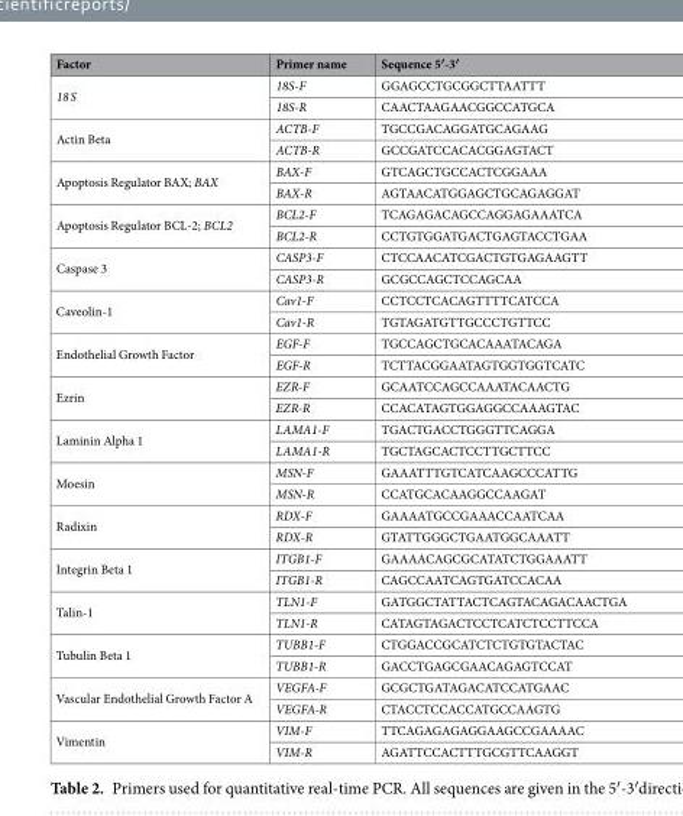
<table><thead><tr><td>Factor</td><td>Primer name</td><td>Sequence 5′-3′</td></tr></thead><tbody><tr><td rowspan="2">18 S</td><td>18S-F</td><td>GGAGCCTGCGGCTTAATTT</td></tr><tr><td>18S-R</td><td>CAACTAAGAACGGCCATGCA</td></tr><tr><td rowspan="2">Actin Beta</td><td>ACTB-F</td><td>TGCCGACAGGATGCAGAAG</td></tr><tr><td>ACTB-R</td><td>GCCGATCCACACGGAGTACT</td></tr><tr><td rowspan="2">Apoptosis Regulator BAX; BAX</td><td>BAX-F</td><td>GTCAGCTGCCACTCGGAAA</td></tr><tr><td>BAX-R</td><td>AGTAACATGGAGCTGCAGAGGAT</td></tr><tr><td rowspan="2">Apoptosis Regulator BCL-2; BCL2</td><td>BCL2-F</td><td>TCAGAGACAGCCAGGAGAAATCA</td></tr><tr><td>BCL2-R</td><td>CCTGTGGATGACTGAGTACCTGAA</td></tr><tr><td rowspan="2">Caspase 3</td><td>CASP3-F</td><td>CTCCAACATCGACTGTGAGAAGTT</td></tr><tr><td>CASP3-R</td><td>GCGCCAGCTCCAGCAA</td></tr><tr><td rowspan="2">Caveolin-1</td><td>Cav1-F</td><td>CCTCCTCACAGTTTTCATCCA</td></tr><tr><td>Cav1-R</td><td>TGTAGATGTTGCCCTGTTCC</td></tr><tr><td rowspan="2">Endothelial Growth Factor</td><td>EGF-F</td><td>TGCCAGCTGCACAAATACAGA</td></tr><tr><td>EGF-R</td><td>TCTTACGGAATAGTGGTGGTCATC</td></tr><tr><td rowspan="2">Ezrin</td><td>EZR-F</td><td>GCAATCCAGCCAAATACAACTG</td></tr><tr><td>EZR-R</td><td>CCACATAGTGGAGGCCAAAGTAC</td></tr><tr><td rowspan="2">Laminin Alpha 1</td><td>LAMA1-F</td><td>TGACTGACCTGGGTTCAGGA</td></tr><tr><td>LAMA1-R</td><td>TGCTAGCACTCCTTGCTTCC</td></tr><tr><td rowspan="2">Moesin</td><td>MSN-F</td><td>GAAATTTGTCATCAAGCCCATTG</td></tr><tr><td>MSN-R</td><td>CCATGCACAAGGCCAAGAT</td></tr><tr><td rowspan="2">Radixin</td><td>RDX-F</td><td>GAAAATGCCGAAACCAATCAA</td></tr><tr><td>RDX-R</td><td>GTATTGGGCTGAATGGCAAATT</td></tr><tr><td rowspan="2">Integrin Beta 1</td><td>ITGB1-F</td><td>GAAAACAGCGCATATCTGGAAATT</td></tr><tr><td>ITGB1-R</td><td>CAGCCAATCAGTGATCCACAA</td></tr><tr><td rowspan="2">Talin-1</td><td>TLN1-F</td><td>GATGGCTATTACTCAGTACAGACAACTGA</td></tr><tr><td>TLN1-R</td><td>CATAGTAGACTCCTCATCTCCTTCCA</td></tr><tr><td rowspan="2">Tubulin Beta 1</td><td>TUBB1-F</td><td>CTGGACCGCATCTCTGTGTACTAC</td></tr><tr><td>TUBB1-R</td><td>GACCTGAGCGAACAGAGTCCAT</td></tr><tr><td rowspan="2">Vascular Endothelial Growth Factor A</td><td>VEGFA-F</td><td>GCGCTGATAGACATCCATGAAC</td></tr><tr><td>VEGFA-R</td><td>CTACCTCCACCATGCCAAGTG</td></tr><tr><td rowspan="2">Vimentin</td><td>VIM-F</td><td>TTCAGAGAGAGGAAGCCGAAAAC</td></tr><tr><td>VIM-R</td><td>AGATTCCACTTTGCGTTCAAGGT</td></tr></tbody></table>